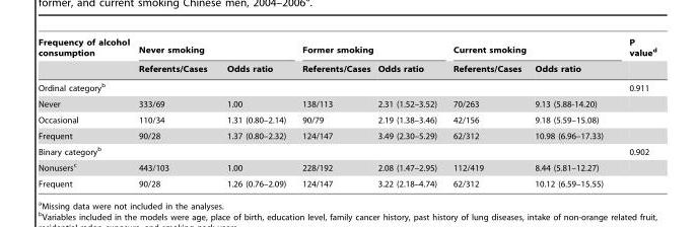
<table><thead><tr><td rowspan="2">Frequency of alcohol consumption</td><td colspan="2">Never smoking</td><td colspan="2">Former smoking</td><td colspan="2">Current smoking</td><td rowspan="2">P value<sup>d</sup></td></tr><tr><td>Referents/Cases</td><td>Odds ratio</td><td>Referents/Cases</td><td>Odds ratio</td><td>Referents/Cases</td><td>Odds ratio</td></tr></thead><tbody><tr><td>Ordinal category<sup>b</sup></td><td></td><td></td><td></td><td></td><td></td><td></td><td>0.911</td></tr><tr><td>Never</td><td>333/69</td><td>1.00</td><td>138/113</td><td>2.31 (1.52–3.52)</td><td>70/263</td><td>9.13 (5.88-14.20)</td><td></td></tr><tr><td>Occasional</td><td>110/34</td><td>1.31 (0.80–2.14)</td><td>90/79</td><td>2.19 (1.38–3.46)</td><td>42/156</td><td>9.18 (5.59–15.08)</td><td></td></tr><tr><td>Frequent</td><td>90/28</td><td>1.37 (0.80–2.32)</td><td>124/147</td><td>3.49 (2.30–5.29)</td><td>62/312</td><td>10.98 (6.96–17.33)</td><td></td></tr><tr><td>Binary category<sup>b</sup></td><td></td><td></td><td></td><td></td><td></td><td></td><td>0.902</td></tr><tr><td>Nonusers<sup>c</sup></td><td>443/103</td><td>1.00</td><td>228/192</td><td>2.08 (1.47–2.95)</td><td>112/419</td><td>8.44 (5.81–12.27)</td><td></td></tr><tr><td>Frequent</td><td>90/28</td><td>1.26 (0.76–2.09)</td><td>124/147</td><td>3.22 (2.18–4.74)</td><td>62/312</td><td>10.12 (6.59–15.55)</td><td></td></tr></tbody></table>